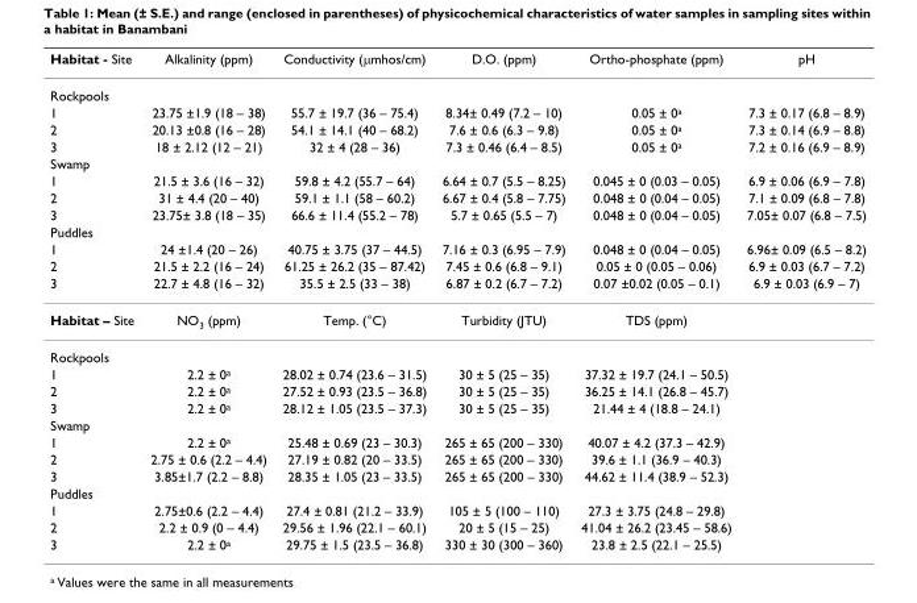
<table><thead><tr><td>Habitat - Site</td><td>Alkalinity (ppm)</td><td>Conductivity (µmhos/cm)</td><td>D.O. (ppm)</td><td>Ortho-phosphate (ppm)</td><td>pH</td></tr></thead><tbody><tr><td colspan="6">Rockpools</td></tr><tr><td>1</td><td>23.75 ±1.9 (18 – 38)</td><td>55.7 ± 19.7 (36 – 75.4)</td><td>8.34± 0.49 (7.2 – 10)</td><td>0.05 ± 0<sup>a</sup></td><td>7.3 ± 0.17 (6.8 – 8.9)</td></tr><tr><td>2</td><td>20.13 ±0.8 (16 – 28)</td><td>54.1 ± 14.1 (40 – 68.2)</td><td>7.6 ± 0.6 (6.3 – 9.8)</td><td>0.05 ± 0<sup>a</sup></td><td>7.3 ± 0.14 (6.9 – 8.8)</td></tr><tr><td>3</td><td>18 ± 2.12 (12 – 21)</td><td>32 ± 4 (28 – 36)</td><td>7.3 ± 0.46 (6.4 – 8.5)</td><td>0.05 ± 0<sup>a</sup></td><td>7.2 ± 0.16 (6.9 – 8.9)</td></tr><tr><td colspan="6">Swamp</td></tr><tr><td>1</td><td>21.5 ± 3.6 (16 – 32)</td><td>59.8 ± 4.2 (55.7 – 64)</td><td>6.64 ± 0.7 (5.5 – 8.25)</td><td>0.045 ± 0 (0.03 – 0.05)</td><td>6.9 ± 0.06 (6.9 – 7.8)</td></tr><tr><td>2</td><td>31 ± 4.4 (20 – 40)</td><td>59.1 ± 1.1 (58 – 60.2)</td><td>6.67 ± 0.4 (5.8 – 7.75)</td><td>0.048 ± 0 (0.04 – 0.05)</td><td>7.1 ± 0.09 (6.8 – 7.8)</td></tr><tr><td>3</td><td>23.75± 3.8 (18 – 35)</td><td>66.6 ± 11.4 (55.2 – 78)</td><td>5.7 ± 0.65 (5.5 – 7)</td><td>0.048 ± 0 (0.04 – 0.05)</td><td>7.05± 0.07 (6.8 – 7.5)</td></tr><tr><td colspan="6">Puddles</td></tr><tr><td>1</td><td>24 ±1.4 (20 – 26)</td><td>40.75 ± 3.75 (37 – 44.5)</td><td>7.16 ± 0.3 (6.95 – 7.9)</td><td>0.048 ± 0 (0.04 – 0.05)</td><td>6.96± 0.09 (6.5 – 8.2)</td></tr><tr><td>2</td><td>21.5 ± 2.2 (16 – 24)</td><td>61.25 ± 26.2 (35 – 87.42)</td><td>7.45 ± 0.6 (6.8 – 9.1)</td><td>0.05 ± 0 (0.05 – 0.06)</td><td>6.9 ± 0.03 (6.7 – 7.2)</td></tr><tr><td>3</td><td>22.7 ± 4.8 (16 – 32)</td><td>35.5 ± 2.5 (33 – 38)</td><td>6.87 ± 0.2 (6.7 – 7.2)</td><td>0.07 ±0.02 (0.05 – 0.1)</td><td>6.9 ± 0.03 (6.9 – 7)</td></tr><tr><td>Habitat – Site</td><td>NO<sub>3</sub> (ppm)</td><td>Temp. (°C)</td><td>Turbidity (JTU)</td><td>TDS (ppm)</td><td></td></tr><tr><td colspan="6">Rockpools</td></tr><tr><td>1</td><td>2.2 ± 0<sup>a</sup></td><td>28.02 ± 0.74 (23.6 – 31.5)</td><td>30 ± 5 (25 – 35)</td><td>37.32 ± 19.7 (24.1 – 50.5)</td><td></td></tr><tr><td>2</td><td>2.2 ± 0<sup>a</sup></td><td>27.52 ± 0.93 (23.5 – 36.8)</td><td>30 ± 5 (25 – 35)</td><td>36.25 ± 14.1 (26.8 – 45.7)</td><td></td></tr><tr><td>3</td><td>2.2 ± 0<sup>a</sup></td><td>28.12 ± 1.05 (23.5 – 37.3)</td><td>30 ± 5 (25 – 35)</td><td>21.44 ± 4 (18.8 – 24.1)</td><td></td></tr><tr><td colspan="6">Swamp</td></tr><tr><td>1</td><td>2.2 ± 0<sup>a</sup></td><td>25.48 ± 0.69 (23 – 30.3)</td><td>265 ± 65 (200 – 330)</td><td>40.07 ± 4.2 (37.3 – 42.9)</td><td></td></tr><tr><td>2</td><td>2.75 ± 0.6 (2.2 – 4.4)</td><td>27.19 ± 0.82 (20 – 33.5)</td><td>265 ± 65 (200 – 330)</td><td>39.6 ± 1.1 (36.9 – 40.3)</td><td></td></tr><tr><td>3</td><td>3.85±1.7 (2.2 – 8.8)</td><td>28.35 ± 1.05 (23 – 33.5)</td><td>265 ± 65 (200 – 330)</td><td>44.62 ± 11.4 (38.9 – 52.3)</td><td></td></tr><tr><td colspan="6">Puddles</td></tr><tr><td>1</td><td>2.75±0.6 (2.2 – 4.4)</td><td>27.4 ± 0.81 (21.2 – 33.9)</td><td>105 ± 5 (100 – 110)</td><td>27.3 ± 3.75 (24.8 – 29.8)</td><td></td></tr><tr><td>2</td><td>2.2 ± 0.9 (0 – 4.4)</td><td>29.56 ± 1.96 (22.1 – 60.1)</td><td>20 ± 5 (15 – 25)</td><td>41.04 ± 26.2 (23.45 – 58.6)</td><td></td></tr><tr><td>3</td><td>2.2 ± 0<sup>a</sup></td><td>29.75 ± 1.5 (23.5 – 36.8)</td><td>330 ± 30 (300 – 360)</td><td>23.8 ± 2.5 (22.1 – 25.5)</td><td></td></tr></tbody></table>